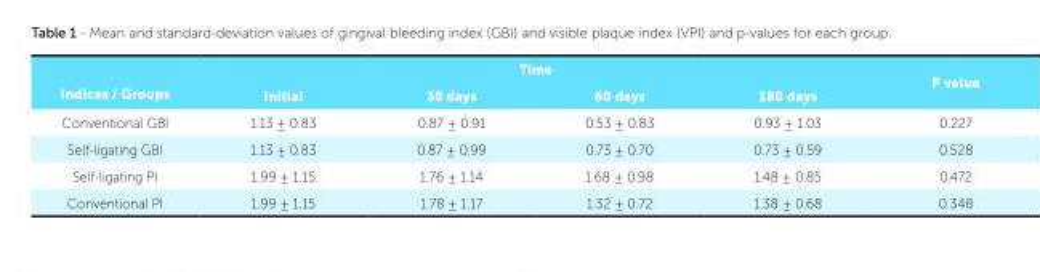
<table><thead><tr><td rowspan="2">Indices / Groups</td><td colspan="4">Time</td><td rowspan="2">P value</td></tr><tr><td>Initial</td><td>30 days</td><td>60 days</td><td>180 days</td></tr></thead><tbody><tr><td>Conventional GBI</td><td>1.13 ± 0.83</td><td>0.87 ± 0.91</td><td>0.53 ± 0.83</td><td>0.93 ± 1.03</td><td>0.227</td></tr><tr><td>Self-ligating GBI</td><td>1.13 ± 0.83</td><td>0.87 ± 0.99</td><td>0.73 ± 0.70</td><td>0.73 ± 0.59</td><td>0.528</td></tr><tr><td>Self-ligating PI</td><td>1.99 ± 1.15</td><td>1.76 ± 1.14</td><td>1.68 ± 0.98</td><td>1.48 ± 0.85</td><td>0.472</td></tr><tr><td>Conventional PI</td><td>1.99 ± 1.15</td><td>1.78 ± 1.17</td><td>1.32 ± 0.72</td><td>1.38 ± 0.68</td><td>0.348</td></tr></tbody></table>